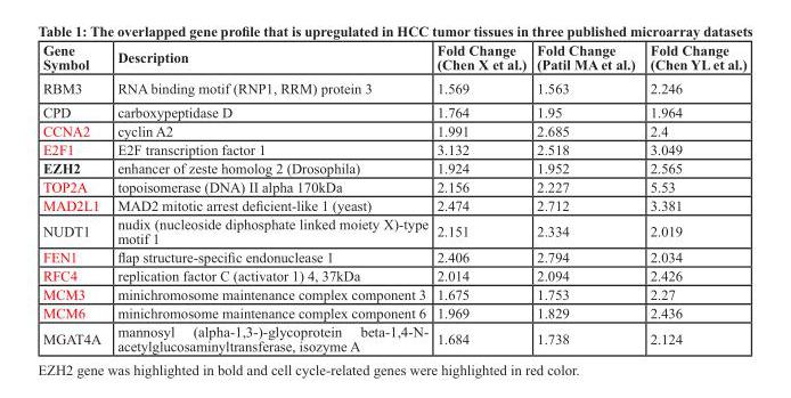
<table><thead><tr><td>Gene Symbol</td><td>Description</td><td>Fold Change (Chen X et al.)</td><td>Fold Change (Patil MA et al.)</td><td>Fold Change (Chen YL et al.)</td></tr></thead><tbody><tr><td>RBM3</td><td>RNA binding motif (RNP1, RRM) protein 3</td><td>1.569</td><td>1.563</td><td>2.246</td></tr><tr><td>CPD</td><td>carboxypeptidase D</td><td>1.764</td><td>1.95</td><td>1.964</td></tr><tr><td>CCNA2</td><td>cyclin A2</td><td>1.991</td><td>2.685</td><td>2.4</td></tr><tr><td>E2F1</td><td>E2F transcription factor 1</td><td>3.132</td><td>2.518</td><td>3.049</td></tr><tr><td>EZH2</td><td>enhancer of zeste homolog 2 (Drosophila)</td><td>1.924</td><td>1.952</td><td>2.565</td></tr><tr><td>TOP2A</td><td>topoisomerase (DNA) II alpha 170kDa</td><td>2.156</td><td>2.227</td><td>5.53</td></tr><tr><td>MAD2L1</td><td>MAD2 mitotic arrest deficient-like 1 (yeast)</td><td>2.474</td><td>2.712</td><td>3.381</td></tr><tr><td>NUDT1</td><td>nudix (nucleoside diphosphate linked moiety X)-type motif 1</td><td>2.151</td><td>2.334</td><td>2.019</td></tr><tr><td>FEN1</td><td>flap structure-specific endonuclease 1</td><td>2.406</td><td>2.794</td><td>2.034</td></tr><tr><td>RFC4</td><td>replication factor C (activator 1) 4, 37kDa</td><td>2.014</td><td>2.094</td><td>2.426</td></tr><tr><td>MCM3</td><td>minichromosome maintenance complex component 3</td><td>1.675</td><td>1.753</td><td>2.27</td></tr><tr><td>MCM6</td><td>minichromosome maintenance complex component 6</td><td>1.969</td><td>1.829</td><td>2.436</td></tr><tr><td>MGAT4A</td><td>mannosyl (alpha-1,3-)-glycoprotein beta-1,4-N- acetylglucosaminyltransferase, isozyme A</td><td>1.684</td><td>1.738</td><td>2.124</td></tr></tbody></table>